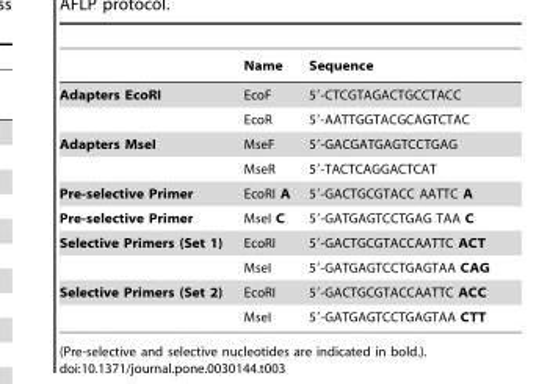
<table><thead><tr><td></td><td>Name</td><td>Sequence</td></tr></thead><tbody><tr><td rowspan="2">Adapters EcoRI</td><td>EcoF</td><td>5′-CTCGTAGACTGCCTACC</td></tr><tr><td>EcoR</td><td>5′-AATTGGTACGCAGTCTAC</td></tr><tr><td rowspan="2">Adapters MseI</td><td>MseF</td><td>5′-GACGATGAGTCCTGAG</td></tr><tr><td>MseR</td><td>5′-TACTCAGGACTCAT</td></tr><tr><td>Pre-selective Primer</td><td>EcoRI A</td><td>5′-GACTGCGTACC AATTC A</td></tr><tr><td>Pre-selective Primer</td><td>MseI C</td><td>5′-GATGAGTCCTGAG TAA C</td></tr><tr><td rowspan="2">Selective Primers (Set 1)</td><td>EcoRI</td><td>5′-GACTGCGTACCAATTC ACT</td></tr><tr><td>MseI</td><td>5′-GATGAGTCCTGAGTAA CAG</td></tr><tr><td rowspan="2">Selective Primers (Set 2)</td><td>EcoRI</td><td>5′-GACTGCGTACCAATTC ACC</td></tr><tr><td>MseI</td><td>5′-GATGAGTCCTGAGTAA CTT</td></tr></tbody></table>